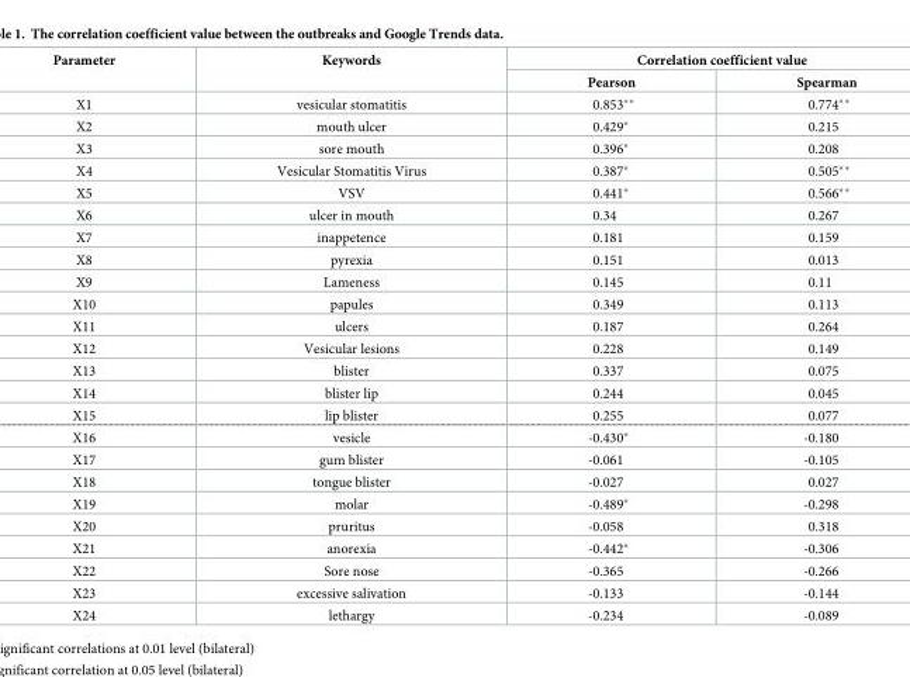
<table><thead><tr><td rowspan="2">Parameter</td><td rowspan="2">Keywords</td><td colspan="2">Correlation coefficient value</td></tr><tr><td>Pearson</td><td>Spearman</td></tr></thead><tbody><tr><td>X1</td><td>vesicular stomatitis</td><td>0.853**</td><td>0.774**</td></tr><tr><td>X2</td><td>mouth ulcer</td><td>0.429*</td><td>0.215</td></tr><tr><td>X3</td><td>sore mouth</td><td>0.396*</td><td>0.208</td></tr><tr><td>X4</td><td>Vesicular Stomatitis Virus</td><td>0.387*</td><td>0.505**</td></tr><tr><td>X5</td><td>VSV</td><td>0.441*</td><td>0.566**</td></tr><tr><td>X6</td><td>ulcer in mouth</td><td>0.34</td><td>0.267</td></tr><tr><td>X7</td><td>inappetence</td><td>0.181</td><td>0.159</td></tr><tr><td>X8</td><td>pyrexia</td><td>0.151</td><td>0.013</td></tr><tr><td>X9</td><td>Lameness</td><td>0.145</td><td>0.11</td></tr><tr><td>X10</td><td>papules</td><td>0.349</td><td>0.113</td></tr><tr><td>X11</td><td>ulcers</td><td>0.187</td><td>0.264</td></tr><tr><td>X12</td><td>Vesicular lesions</td><td>0.228</td><td>0.149</td></tr><tr><td>X13</td><td>blister</td><td>0.337</td><td>0.075</td></tr><tr><td>X14</td><td>blister lip</td><td>0.244</td><td>0.045</td></tr><tr><td>X15</td><td>lip blister</td><td>0.255</td><td>0.077</td></tr><tr><td>X16</td><td>vesicle</td><td>-0.430*</td><td>-0.180</td></tr><tr><td>X17</td><td>gum blister</td><td>-0.061</td><td>-0.105</td></tr><tr><td>X18</td><td>tongue blister</td><td>-0.027</td><td>0.027</td></tr><tr><td>X19</td><td>molar</td><td>-0.489*</td><td>-0.298</td></tr><tr><td>X20</td><td>pruritus</td><td>-0.058</td><td>0.318</td></tr><tr><td>X21</td><td>anorexia</td><td>-0.442*</td><td>-0.306</td></tr><tr><td>X22</td><td>Sore nose</td><td>-0.365</td><td>-0.266</td></tr><tr><td>X23</td><td>excessive salivation</td><td>-0.133</td><td>-0.144</td></tr><tr><td>X24</td><td>lethargy</td><td>-0.234</td><td>-0.089</td></tr></tbody></table>